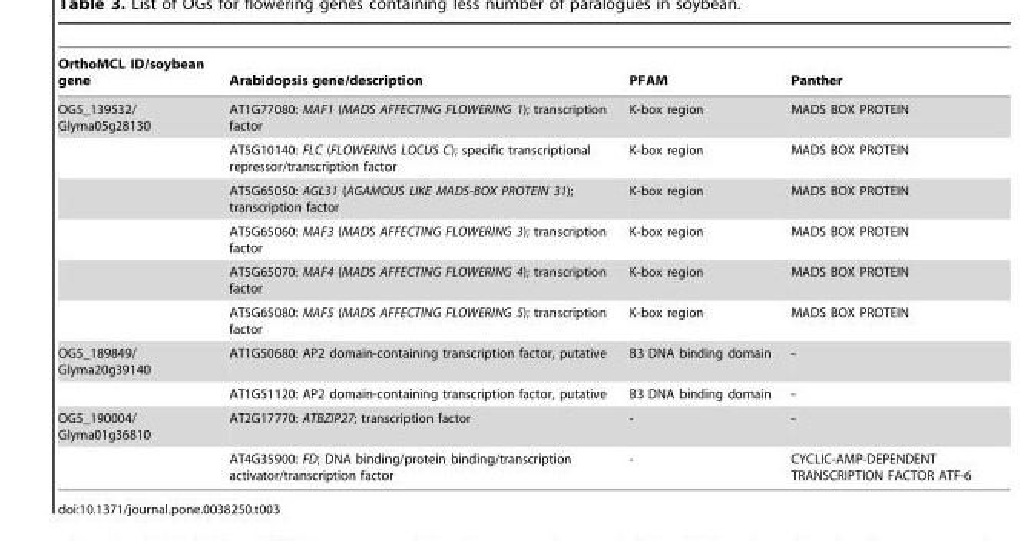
<table><thead><tr><td>OrthoMCL ID/soybean gene</td><td>Arabidopsis gene/description</td><td>PFAM</td><td>Panther</td></tr></thead><tbody><tr><td rowspan="6">OG5_139532/ Glyma05g28130</td><td>AT1G77080: MAF1 (MADS AFFECTING FLOWERING 1); transcription factor</td><td>K-box region</td><td>MADS BOX PROTEIN</td></tr><tr><td>AT5G10140: FLC (FLOWERING LOCUS C); specific transcriptional repressor/transcription factor</td><td>K-box region</td><td>MADS BOX PROTEIN</td></tr><tr><td>AT5G65050: AGL31 (AGAMOUS LIKE MADS-BOX PROTEIN 31); transcription factor</td><td>K-box region</td><td>MADS BOX PROTEIN</td></tr><tr><td>AT5G65060: MAF3 (MADS AFFECTING FLOWERING 3); transcription factor</td><td>K-box region</td><td>MADS BOX PROTEIN</td></tr><tr><td>AT5G65070: MAF4 (MADS AFFECTING FLOWERING 4); transcription factor</td><td>K-box region</td><td>MADS BOX PROTEIN</td></tr><tr><td>AT5G65080: MAF5 (MADS AFFECTING FLOWERING 5); transcription factor</td><td>K-box region</td><td>MADS BOX PROTEIN</td></tr><tr><td rowspan="2">OG5_189849/ Glyma20g39140</td><td>AT1G50680: AP2 domain-containing transcription factor, putative</td><td>B3 DNA binding domain</td><td>-</td></tr><tr><td>AT1G51120: AP2 domain-containing transcription factor, putative</td><td>B3 DNA binding domain</td><td>-</td></tr><tr><td rowspan="2">OG5_190004/ Glyma01g36810</td><td>AT2G17770: ATBZIP27; transcription factor</td><td>-</td><td>-</td></tr><tr><td>AT4G35900: FD; DNA binding/protein binding/transcription activator/transcription factor</td><td>-</td><td>CYCLIC-AMP-DEPENDENT TRANSCRIPTION FACTOR ATF-6</td></tr></tbody></table>